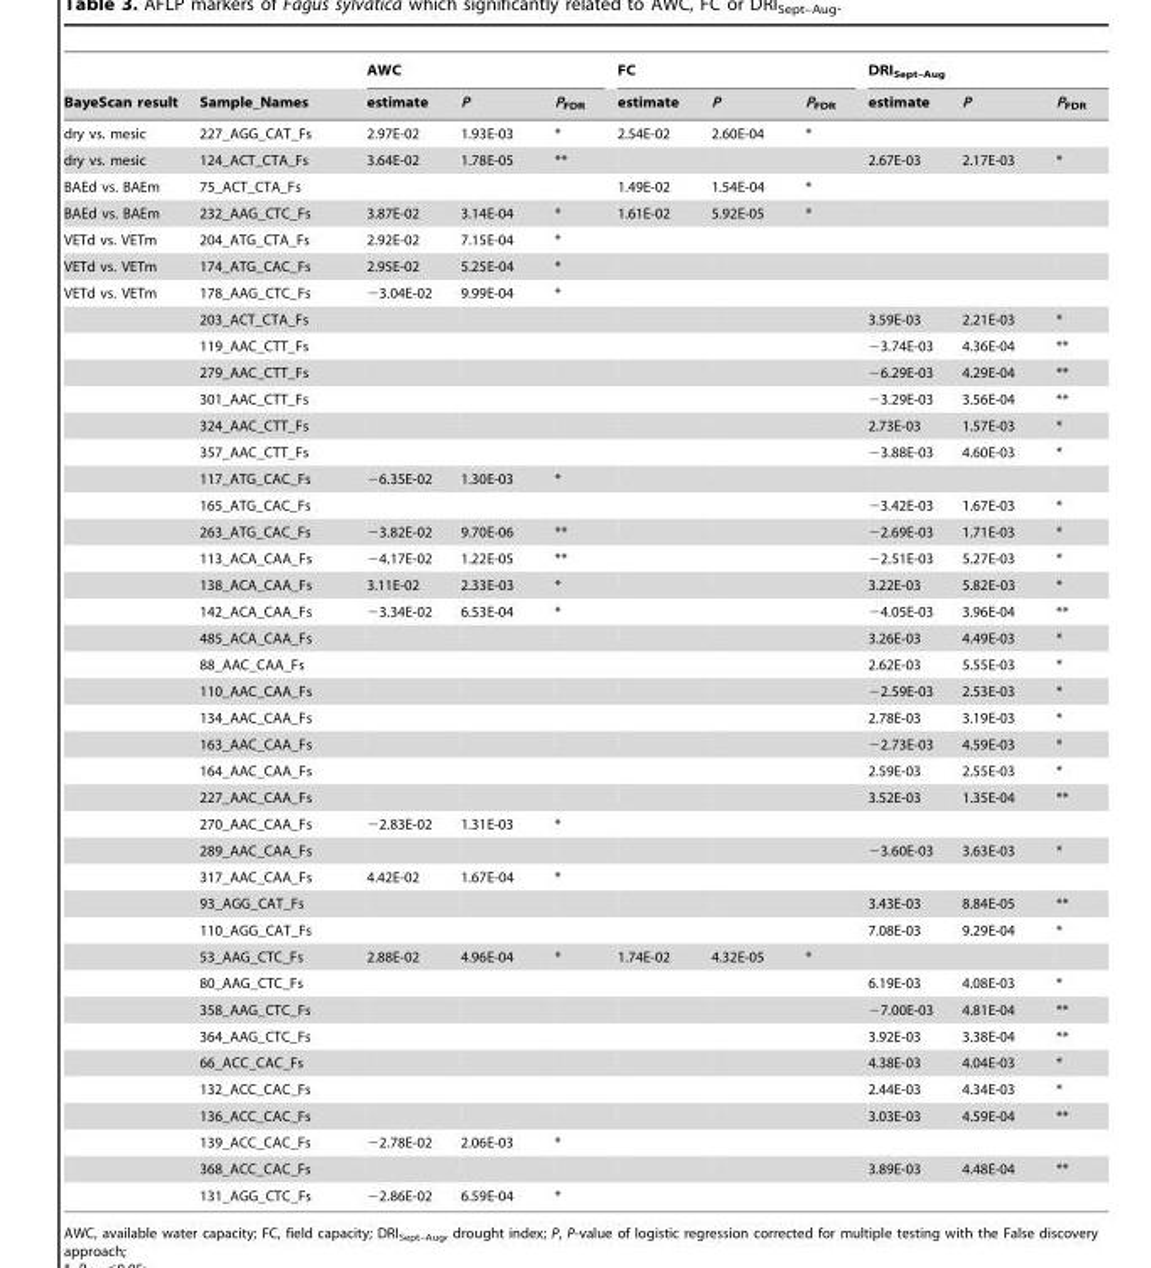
<table><thead><tr><td rowspan="2">BayeScan result</td><td rowspan="2">Sample_Names</td><td colspan="3">AWC</td><td colspan="3">FC</td><td colspan="3">DRI<sub>Sept–Aug</sub></td></tr><tr><td>estimate</td><td>P</td><td>P<sub>FDR</sub></td><td>estimate</td><td>P</td><td>P<sub>FDR</sub></td><td>estimate</td><td>P</td><td>P<sub>FDR</sub></td></tr></thead><tbody><tr><td>dry vs. mesic</td><td>227_AGG_CAT_Fs</td><td>2.97E-02</td><td>1.93E-03</td><td>*</td><td>2.54E-02</td><td>2.60E-04</td><td>*</td><td></td><td></td><td></td></tr><tr><td>dry vs. mesic</td><td>124_ACT_CTA_Fs</td><td>3.64E-02</td><td>1.78E-05</td><td>**</td><td></td><td></td><td></td><td>2.67E-03</td><td>2.17E-03</td><td>*</td></tr><tr><td>BAEd vs. BAEm</td><td>75_ACT_CTA_Fs</td><td></td><td></td><td></td><td>1.49E-02</td><td>1.54E-04</td><td>*</td><td></td><td></td><td></td></tr><tr><td>BAEd vs. BAEm</td><td>232_AAG_CTC_Fs</td><td>3.87E-02</td><td>3.14E-04</td><td>*</td><td>1.61E-02</td><td>5.92E-05</td><td>*</td><td></td><td></td><td></td></tr><tr><td>VETd vs. VETm</td><td>204_ATG_CTA_Fs</td><td>2.92E-02</td><td>7.15E-04</td><td>*</td><td></td><td></td><td></td><td></td><td></td><td></td></tr><tr><td>VETd vs. VETm</td><td>174_ATG_CAC_Fs</td><td>2.95E-02</td><td>5.25E-04</td><td>*</td><td></td><td></td><td></td><td></td><td></td><td></td></tr><tr><td rowspan="35">VETd vs. VETm</td><td>178_AAG_CTC_Fs</td><td>−3.04E-02</td><td>9.99E-04</td><td>*</td><td></td><td></td><td></td><td></td><td></td><td></td></tr><tr><td>203_ACT_CTA_Fs</td><td></td><td></td><td></td><td></td><td></td><td></td><td>3.59E-03</td><td>2.21E-03</td><td>*</td></tr><tr><td>119_AAC_CTT_Fs</td><td></td><td></td><td></td><td></td><td></td><td></td><td>−3.74E-03</td><td>4.36E-04</td><td>**</td></tr><tr><td>279_AAC_CTT_Fs</td><td></td><td></td><td></td><td></td><td></td><td></td><td>−6.29E-03</td><td>4.29E-04</td><td>**</td></tr><tr><td>301_AAC_CTT_Fs</td><td></td><td></td><td></td><td></td><td></td><td></td><td>−3.29E-03</td><td>3.56E-04</td><td>**</td></tr><tr><td>324_AAC_CTT_Fs</td><td></td><td></td><td></td><td></td><td></td><td></td><td>2.73E-03</td><td>1.57E-03</td><td>*</td></tr><tr><td>357_AAC_CTT_Fs</td><td></td><td></td><td></td><td></td><td></td><td></td><td>−3.88E-03</td><td>4.60E-03</td><td>*</td></tr><tr><td>117_ATG_CAC_Fs</td><td>−6.35E-02</td><td>1.30E-03</td><td>*</td><td></td><td></td><td></td><td></td><td></td><td></td></tr><tr><td>165_ATG_CAC_Fs</td><td></td><td></td><td></td><td></td><td></td><td></td><td>−3.42E-03</td><td>1.67E-03</td><td>*</td></tr><tr><td>263_ATG_CAC_Fs</td><td>−3.82E-02</td><td>9.70E-06</td><td>**</td><td></td><td></td><td></td><td>−2.69E-03</td><td>1.71E-03</td><td>*</td></tr><tr><td>113_ACA_CAA_Fs</td><td>−4.17E-02</td><td>1.22E-05</td><td>**</td><td></td><td></td><td></td><td>−2.51E-03</td><td>5.27E-03</td><td>*</td></tr><tr><td>138_ACA_CAA_Fs</td><td>3.11E-02</td><td>2.33E-03</td><td>*</td><td></td><td></td><td></td><td>3.22E-03</td><td>5.82E-03</td><td>*</td></tr><tr><td>142_ACA_CAA_Fs</td><td>−3.34E-02</td><td>6.53E-04</td><td>*</td><td></td><td></td><td></td><td>−4.05E-03</td><td>3.96E-04</td><td>**</td></tr><tr><td>485_ACA_CAA_Fs</td><td></td><td></td><td></td><td></td><td></td><td></td><td>3.26E-03</td><td>4.49E-03</td><td>*</td></tr><tr><td>88_AAC_CAA_Fs</td><td></td><td></td><td></td><td></td><td></td><td></td><td>2.62E-03</td><td>5.55E-03</td><td>*</td></tr><tr><td>110_AAC_CAA_Fs</td><td></td><td></td><td></td><td></td><td></td><td></td><td>−2.59E-03</td><td>2.53E-03</td><td>*</td></tr><tr><td>134_AAC_CAA_Fs</td><td></td><td></td><td></td><td></td><td></td><td></td><td>2.78E-03</td><td>3.19E-03</td><td>*</td></tr><tr><td>163_AAC_CAA_Fs</td><td></td><td></td><td></td><td></td><td></td><td></td><td>−2.73E-03</td><td>4.59E-03</td><td>*</td></tr><tr><td>164_AAC_CAA_Fs</td><td></td><td></td><td></td><td></td><td></td><td></td><td>2.59E-03</td><td>2.55E-03</td><td>*</td></tr><tr><td>227_AAC_CAA_Fs</td><td></td><td></td><td></td><td></td><td></td><td></td><td>3.52E-03</td><td>1.35E-04</td><td>**</td></tr><tr><td>270_AAC_CAA_Fs</td><td>−2.83E-02</td><td>1.31E-03</td><td>*</td><td></td><td></td><td></td><td></td><td></td><td></td></tr><tr><td>289_AAC_CAA_Fs</td><td></td><td></td><td></td><td></td><td></td><td></td><td>−3.60E-03</td><td>3.63E-03</td><td>*</td></tr><tr><td>317_AAC_CAA_Fs</td><td>4.42E-02</td><td>1.67E-04</td><td>*</td><td></td><td></td><td></td><td></td><td></td><td></td></tr><tr><td>93_AGG_CAT_Fs</td><td></td><td></td><td></td><td></td><td></td><td></td><td>3.43E-03</td><td>8.84E-05</td><td>**</td></tr><tr><td>110_AGG_CAT_Fs</td><td></td><td></td><td></td><td></td><td></td><td></td><td>7.08E-03</td><td>9.29E-04</td><td>*</td></tr><tr><td>53_AAG_CTC_Fs</td><td>2.88E-02</td><td>4.96E-04</td><td>*</td><td>1.74E-02</td><td>4.32E-05</td><td>*</td><td></td><td></td><td></td></tr><tr><td>80_AAG_CTC_Fs</td><td></td><td></td><td></td><td></td><td></td><td></td><td>6.19E-03</td><td>4.08E-03</td><td>*</td></tr><tr><td>358_AAG_CTC_Fs</td><td></td><td></td><td></td><td></td><td></td><td></td><td>−7.00E-03</td><td>4.81E-04</td><td>**</td></tr><tr><td>364_AAG_CTC_Fs</td><td></td><td></td><td></td><td></td><td></td><td></td><td>3.92E-03</td><td>3.38E-04</td><td>**</td></tr><tr><td>66_ACC_CAC_Fs</td><td></td><td></td><td></td><td></td><td></td><td></td><td>4.38E-03</td><td>4.04E-03</td><td>*</td></tr><tr><td>132_ACC_CAC_Fs</td><td></td><td></td><td></td><td></td><td></td><td></td><td>2.44E-03</td><td>4.34E-03</td><td>*</td></tr><tr><td>136_ACC_CAC_Fs</td><td></td><td></td><td></td><td></td><td></td><td></td><td>3.03E-03</td><td>4.59E-04</td><td>**</td></tr><tr><td>139_ACC_CAC_Fs</td><td>−2.78E-02</td><td>2.06E-03</td><td>*</td><td></td><td></td><td></td><td></td><td></td><td></td></tr><tr><td>368_ACC_CAC_Fs</td><td></td><td></td><td></td><td></td><td></td><td></td><td>3.89E-03</td><td>4.48E-04</td><td>**</td></tr><tr><td>131_AGG_CTC_Fs</td><td>−2.86E-02</td><td>6.59E-04</td><td>*</td><td></td><td></td><td></td><td></td><td></td><td></td></tr></tbody></table>